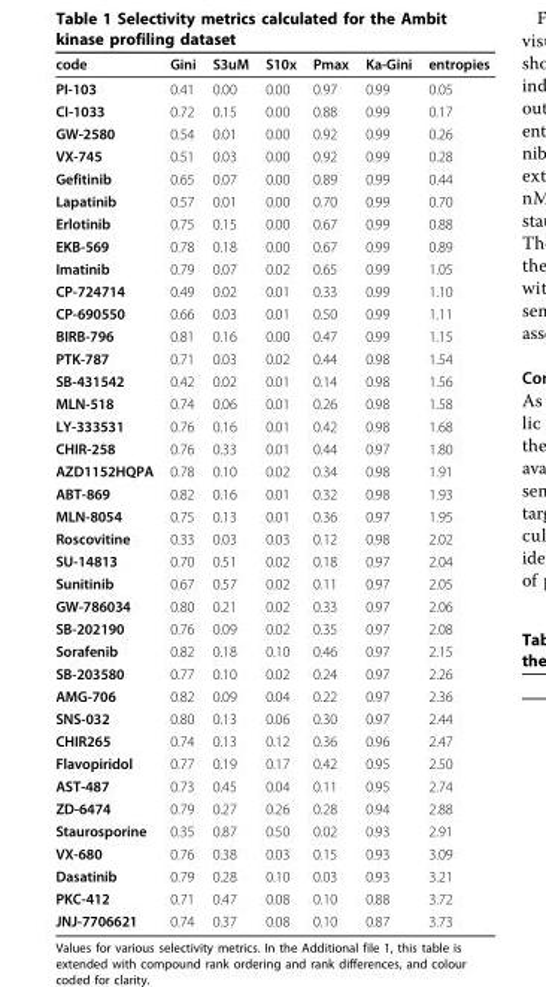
<table><thead><tr><td>code</td><td>Gini</td><td>S3uM</td><td>S10x</td><td>Pmax</td><td>Ka-Gini</td><td>entropies</td></tr></thead><tbody><tr><td>PI-103</td><td>0.41</td><td>0.00</td><td>0.00</td><td>0.97</td><td>0.99</td><td>0.05</td></tr><tr><td>CI-1033</td><td>0.72</td><td>0.15</td><td>0.00</td><td>0.88</td><td>0.99</td><td>0.17</td></tr><tr><td>GW-2580</td><td>0.54</td><td>0.01</td><td>0.00</td><td>0.92</td><td>0.99</td><td>0.26</td></tr><tr><td>VX-745</td><td>0.51</td><td>0.03</td><td>0.00</td><td>0.92</td><td>0.99</td><td>0.28</td></tr><tr><td>Gefitinib</td><td>0.65</td><td>0.07</td><td>0.00</td><td>0.89</td><td>0.99</td><td>0.44</td></tr><tr><td>Lapatinib</td><td>0.57</td><td>0.01</td><td>0.00</td><td>0.70</td><td>0.99</td><td>0.70</td></tr><tr><td>Erlotinib</td><td>0.75</td><td>0.15</td><td>0.00</td><td>0.67</td><td>0.99</td><td>0.88</td></tr><tr><td>EKB-569</td><td>0.78</td><td>0.18</td><td>0.00</td><td>0.67</td><td>0.99</td><td>0.89</td></tr><tr><td>Imatinib</td><td>0.79</td><td>0.07</td><td>0.02</td><td>0.65</td><td>0.99</td><td>1.05</td></tr><tr><td>CP-724714</td><td>0.49</td><td>0.02</td><td>0.01</td><td>0.33</td><td>0.99</td><td>1.10</td></tr><tr><td>CP-690550</td><td>0.66</td><td>0.03</td><td>0.01</td><td>0.50</td><td>0.99</td><td>1.11</td></tr><tr><td>BIRB-796</td><td>0.81</td><td>0.16</td><td>0.00</td><td>0.47</td><td>0.99</td><td>1.15</td></tr><tr><td>PTK-787</td><td>0.71</td><td>0.03</td><td>0.02</td><td>0.44</td><td>0.98</td><td>1.54</td></tr><tr><td>SB-431542</td><td>0.42</td><td>0.02</td><td>0.01</td><td>0.14</td><td>0.98</td><td>1.56</td></tr><tr><td>MLN-518</td><td>0.74</td><td>0.06</td><td>0.01</td><td>0.26</td><td>0.98</td><td>1.58</td></tr><tr><td>LY-333531</td><td>0.76</td><td>0.16</td><td>0.01</td><td>0.42</td><td>0.98</td><td>1.68</td></tr><tr><td>CHIR-258</td><td>0.76</td><td>0.33</td><td>0.01</td><td>0.44</td><td>0.97</td><td>1.80</td></tr><tr><td>AZD1152HQPA</td><td>0.78</td><td>0.10</td><td>0.02</td><td>0.34</td><td>0.98</td><td>1.91</td></tr><tr><td>ABT-869</td><td>0.82</td><td>0.16</td><td>0.01</td><td>0.32</td><td>0.98</td><td>1.93</td></tr><tr><td>MLN-8054</td><td>0.75</td><td>0.13</td><td>0.01</td><td>0.36</td><td>0.97</td><td>1.95</td></tr><tr><td>Roscovitine</td><td>0.33</td><td>0.03</td><td>0.03</td><td>0.12</td><td>0.98</td><td>2.02</td></tr><tr><td>SU-14813</td><td>0.70</td><td>0.51</td><td>0.02</td><td>0.18</td><td>0.97</td><td>2.04</td></tr><tr><td>Sunitinib</td><td>0.67</td><td>0.57</td><td>0.02</td><td>0.11</td><td>0.97</td><td>2.05</td></tr><tr><td>GW-786034</td><td>0.80</td><td>0.21</td><td>0.02</td><td>0.33</td><td>0.97</td><td>2.06</td></tr><tr><td>SB-202190</td><td>0.76</td><td>0.09</td><td>0.02</td><td>0.35</td><td>0.97</td><td>2.08</td></tr><tr><td>Sorafenib</td><td>0.82</td><td>0.18</td><td>0.10</td><td>0.46</td><td>0.97</td><td>2.15</td></tr><tr><td>SB-203580</td><td>0.77</td><td>0.10</td><td>0.02</td><td>0.24</td><td>0.97</td><td>2.26</td></tr><tr><td>AMG-706</td><td>0.82</td><td>0.09</td><td>0.04</td><td>0.22</td><td>0.97</td><td>2.36</td></tr><tr><td>SNS-032</td><td>0.80</td><td>0.13</td><td>0.06</td><td>0.30</td><td>0.97</td><td>2.44</td></tr><tr><td>CHIR265</td><td>0.74</td><td>0.13</td><td>0.12</td><td>0.36</td><td>0.96</td><td>2.47</td></tr><tr><td>Flavopiridol</td><td>0.77</td><td>0.19</td><td>0.17</td><td>0.42</td><td>0.95</td><td>2.50</td></tr><tr><td>AST-487</td><td>0.73</td><td>0.45</td><td>0.04</td><td>0.11</td><td>0.95</td><td>2.74</td></tr><tr><td>ZD-6474</td><td>0.79</td><td>0.27</td><td>0.26</td><td>0.28</td><td>0.94</td><td>2.88</td></tr><tr><td>Staurosporine</td><td>0.35</td><td>0.87</td><td>0.50</td><td>0.02</td><td>0.93</td><td>2.91</td></tr><tr><td>VX-680</td><td>0.76</td><td>0.38</td><td>0.03</td><td>0.15</td><td>0.93</td><td>3.09</td></tr><tr><td>Dasatinib</td><td>0.79</td><td>0.28</td><td>0.10</td><td>0.03</td><td>0.93</td><td>3.21</td></tr><tr><td>PKC-412</td><td>0.71</td><td>0.47</td><td>0.08</td><td>0.10</td><td>0.88</td><td>3.72</td></tr><tr><td>JNJ-7706621</td><td>0.74</td><td>0.37</td><td>0.08</td><td>0.10</td><td>0.87</td><td>3.73</td></tr></tbody></table>